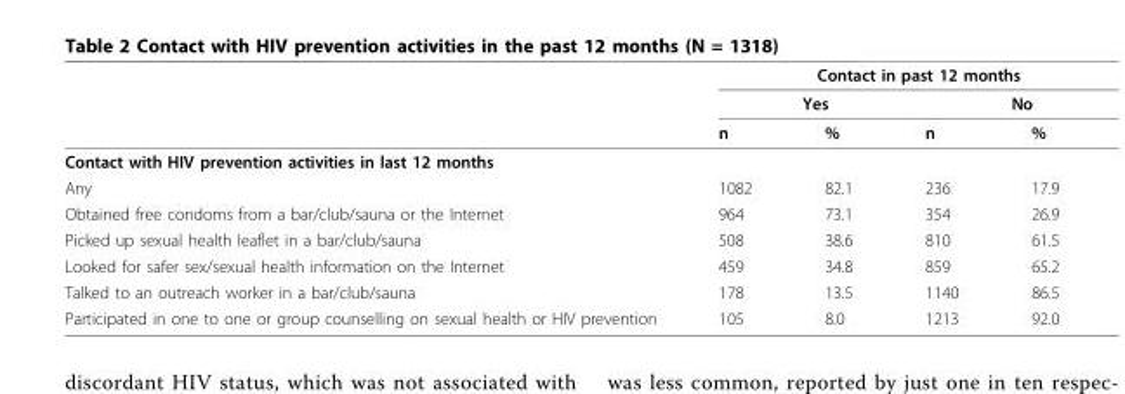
<table><thead><tr><td rowspan="3"></td><td colspan="4">Contact in past 12 months</td></tr><tr><td colspan="2">Yes</td><td colspan="2">No</td></tr><tr><td>n</td><td>%</td><td>n</td><td>%</td></tr></thead><tbody><tr><td colspan="5">Contact with HIV prevention activities in last 12 months</td></tr><tr><td>Any</td><td>1082</td><td>82.1</td><td>236</td><td>17.9</td></tr><tr><td>Obtained free condoms from a bar/club/sauna or the Internet</td><td>964</td><td>73.1</td><td>354</td><td>26.9</td></tr><tr><td>Picked up sexual health leaflet in a bar/club/sauna</td><td>508</td><td>38.6</td><td>810</td><td>61.5</td></tr><tr><td>Looked for safer sex/sexual health information on the Internet</td><td>459</td><td>34.8</td><td>859</td><td>65.2</td></tr><tr><td>Talked to an outreach worker in a bar/club/sauna</td><td>178</td><td>13.5</td><td>1140</td><td>86.5</td></tr><tr><td>Participated in one to one or group counselling on sexual health or HIV prevention</td><td>105</td><td>8.0</td><td>1213</td><td>92.0</td></tr></tbody></table>